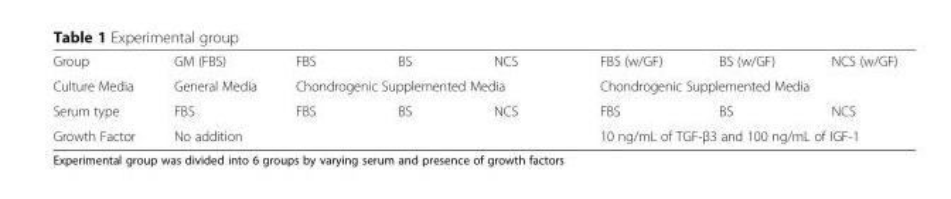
<table><tbody><tr><td>Group</td><td>GM (FBS)</td><td>FBS</td><td>BS</td><td>NCS</td><td>FBS (w/GF)</td><td>BS (w/GF)</td><td>NCS (w/GF)</td></tr><tr><td>Culture Media</td><td>General Media</td><td colspan="3">Chondrogenic Supplemented Media</td><td colspan="3">Chondrogenic Supplemented Media</td></tr><tr><td>Serum type</td><td>FBS</td><td>FBS</td><td>BS</td><td>NCS</td><td>FBS</td><td>BS</td><td>NCS</td></tr><tr><td>Growth Factor</td><td colspan="4">No addition</td><td colspan="3">10 ng/mL of TGF-β3 and 100 ng/mL of IGF-1</td></tr></tbody></table>